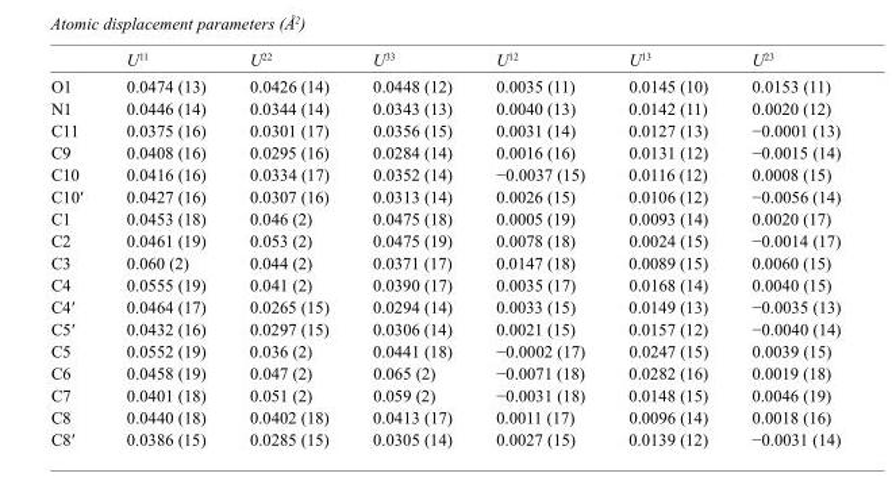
<table><thead><tr><td></td><td>U<sup>11</sup></td><td>U<sup>22</sup></td><td>U<sup>33</sup></td><td>U<sup>12</sup></td><td>U<sup>13</sup></td><td>U<sup>23</sup></td></tr></thead><tbody><tr><td>O1</td><td>0.0474 (13)</td><td>0.0426 (14)</td><td>0.0448 (12)</td><td>0.0035 (11)</td><td>0.0145 (10)</td><td>0.0153 (11)</td></tr><tr><td>N1</td><td>0.0446 (14)</td><td>0.0344 (14)</td><td>0.0343 (13)</td><td>0.0040 (13)</td><td>0.0142 (11)</td><td>0.0020 (12)</td></tr><tr><td>C11</td><td>0.0375 (16)</td><td>0.0301 (17)</td><td>0.0356 (15)</td><td>0.0031 (14)</td><td>0.0127 (13)</td><td>−0.0001 (13)</td></tr><tr><td>C9</td><td>0.0408 (16)</td><td>0.0295 (16)</td><td>0.0284 (14)</td><td>0.0016 (16)</td><td>0.0131 (12)</td><td>−0.0015 (14)</td></tr><tr><td>C10</td><td>0.0416 (16)</td><td>0.0334 (17)</td><td>0.0352 (14)</td><td>−0.0037 (15)</td><td>0.0116 (12)</td><td>0.0008 (15)</td></tr><tr><td>C10′</td><td>0.0427 (16)</td><td>0.0307 (16)</td><td>0.0313 (14)</td><td>0.0026 (15)</td><td>0.0106 (12)</td><td>−0.0056 (14)</td></tr><tr><td>C1</td><td>0.0453 (18)</td><td>0.046 (2)</td><td>0.0475 (18)</td><td>0.0005 (19)</td><td>0.0093 (14)</td><td>0.0020 (17)</td></tr><tr><td>C2</td><td>0.0461 (19)</td><td>0.053 (2)</td><td>0.0475 (19)</td><td>0.0078 (18)</td><td>0.0024 (15)</td><td>−0.0014 (17)</td></tr><tr><td>C3</td><td>0.060 (2)</td><td>0.044 (2)</td><td>0.0371 (17)</td><td>0.0147 (18)</td><td>0.0089 (15)</td><td>0.0060 (15)</td></tr><tr><td>C4</td><td>0.0555 (19)</td><td>0.041 (2)</td><td>0.0390 (17)</td><td>0.0035 (17)</td><td>0.0168 (14)</td><td>0.0040 (15)</td></tr><tr><td>C4′</td><td>0.0464 (17)</td><td>0.0265 (15)</td><td>0.0294 (14)</td><td>0.0033 (15)</td><td>0.0149 (13)</td><td>−0.0035 (13)</td></tr><tr><td>C5′</td><td>0.0432 (16)</td><td>0.0297 (15)</td><td>0.0306 (14)</td><td>0.0021 (15)</td><td>0.0157 (12)</td><td>−0.0040 (14)</td></tr><tr><td>C5</td><td>0.0552 (19)</td><td>0.036 (2)</td><td>0.0441 (18)</td><td>−0.0002 (17)</td><td>0.0247 (15)</td><td>0.0039 (15)</td></tr><tr><td>C6</td><td>0.0458 (19)</td><td>0.047 (2)</td><td>0.065 (2)</td><td>−0.0071 (18)</td><td>0.0282 (16)</td><td>0.0019 (18)</td></tr><tr><td>C7</td><td>0.0401 (18)</td><td>0.051 (2)</td><td>0.059 (2)</td><td>−0.0031 (18)</td><td>0.0148 (15)</td><td>0.0046 (19)</td></tr><tr><td>C8</td><td>0.0440 (18)</td><td>0.0402 (18)</td><td>0.0413 (17)</td><td>0.0011 (17)</td><td>0.0096 (14)</td><td>0.0018 (16)</td></tr><tr><td>C8′</td><td>0.0386 (15)</td><td>0.0285 (15)</td><td>0.0305 (14)</td><td>0.0027 (15)</td><td>0.0139 (12)</td><td>−0.0031 (14)</td></tr></tbody></table>